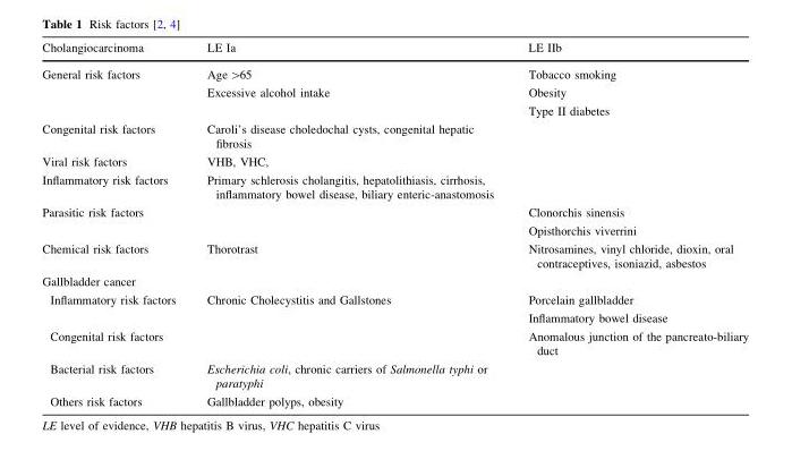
<table><thead><tr><td>Cholangiocarcinoma</td><td>LE Ia</td><td>LE IIb</td></tr></thead><tbody><tr><td>General risk factors</td><td>Age &gt;65 Excessive alcohol intake</td><td>Tobacco smoking Obesity Type II diabetes</td></tr><tr><td>Congenital risk factors</td><td>Caroli’s disease choledochal cysts, congenital hepatic fibrosis</td><td></td></tr><tr><td>Viral risk factors</td><td>VHB, VHC,</td><td></td></tr><tr><td>Inflammatory risk factors</td><td>Primary schlerosis cholangitis, hepatolithiasis, cirrhosis, inflammatory bowel disease, biliary enteric-anastomosis</td><td></td></tr><tr><td>Parasitic risk factors</td><td></td><td>Clonorchis sinensis Opisthorchis viverrini</td></tr><tr><td>Chemical risk factors</td><td>Thorotrast</td><td>Nitrosamines, vinyl chloride, dioxin, oral contraceptives, isoniazid, asbestos</td></tr><tr><td colspan="3">Gallbladder cancer</td></tr><tr><td>Inflammatory risk factors</td><td>Chronic Cholecystitis and Gallstones</td><td>Porcelain gallbladder Inflammatory bowel disease</td></tr><tr><td>Congenital risk factors</td><td></td><td>Anomalous junction of the pancreato-biliary duct</td></tr><tr><td>Bacterial risk factors</td><td>Escherichia coli, chronic carriers of Salmonella typhi or paratyphi</td><td></td></tr><tr><td>Others risk factors</td><td>Gallbladder polyps, obesity</td><td></td></tr></tbody></table>